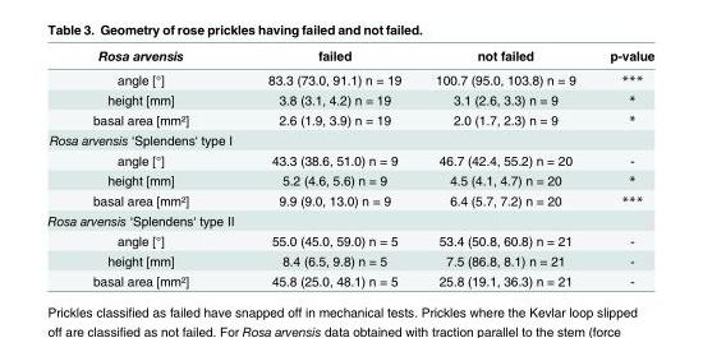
<table><thead><tr><td>Rosa arvensis</td><td>failed</td><td>not failed</td><td>p-value</td></tr></thead><tbody><tr><td>angle [°]</td><td>83.3 (73.0, 91.1) n = 19</td><td>100.7 (95.0, 103.8) n = 9</td><td>***</td></tr><tr><td>height [mm]</td><td>3.8 (3.1, 4.2) n = 19</td><td>3.1 (2.6, 3.3) n = 9</td><td>*</td></tr><tr><td>basal area [mm²]</td><td>2.6 (1.9, 3.9) n = 19</td><td>2.0 (1.7, 2.3) n = 9</td><td>*</td></tr><tr><td colspan="4">Rosa arvensis ‘Splendens‘ type I</td></tr><tr><td>angle [°]</td><td>43.3 (38.6, 51.0) n = 9</td><td>46.7 (42.4, 55.2) n = 20</td><td>-</td></tr><tr><td>height [mm]</td><td>5.2 (4.6, 5.6) n = 9</td><td>4.5 (4.1, 4.7) n = 20</td><td>*</td></tr><tr><td>basal area [mm²]</td><td>9.9 (9.0, 13.0) n = 9</td><td>6.4 (5.7, 7.2) n = 20</td><td>***</td></tr><tr><td colspan="4">Rosa arvensis ‘Splendens‘ type II</td></tr><tr><td>angle [°]</td><td>55.0 (45.0, 59.0) n = 5</td><td>53.4 (50.8, 60.8) n = 21</td><td>-</td></tr><tr><td>height [mm]</td><td>8.4 (6.5, 9.8) n = 5</td><td>7.5 (86.8, 8.1) n = 21</td><td>-</td></tr><tr><td>basal area [mm²]</td><td>45.8 (25.0, 48.1) n = 5</td><td>25.8 (19.1, 36.3) n = 21</td><td>-</td></tr></tbody></table>